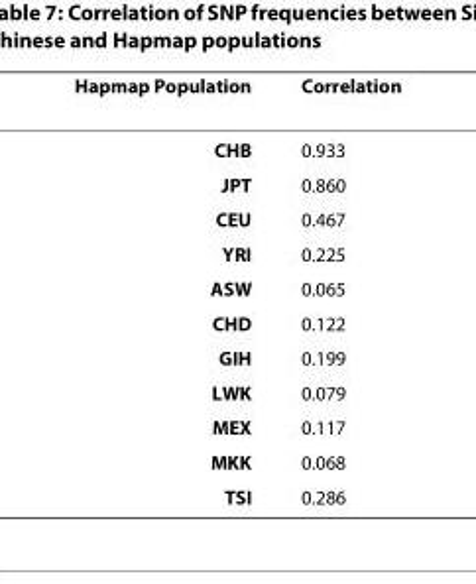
<table><thead><tr><td>Hapmap Population</td><td>Correlation</td></tr></thead><tbody><tr><td>CHB</td><td>0.933</td></tr><tr><td>JPT</td><td>0.860</td></tr><tr><td>CEU</td><td>0.467</td></tr><tr><td>YRI</td><td>0.225</td></tr><tr><td>ASW</td><td>0.065</td></tr><tr><td>CHD</td><td>0.122</td></tr><tr><td>GIH</td><td>0.199</td></tr><tr><td>LWK</td><td>0.079</td></tr><tr><td>MEX</td><td>0.117</td></tr><tr><td>MKK</td><td>0.068</td></tr><tr><td>TSI</td><td>0.286</td></tr></tbody></table>